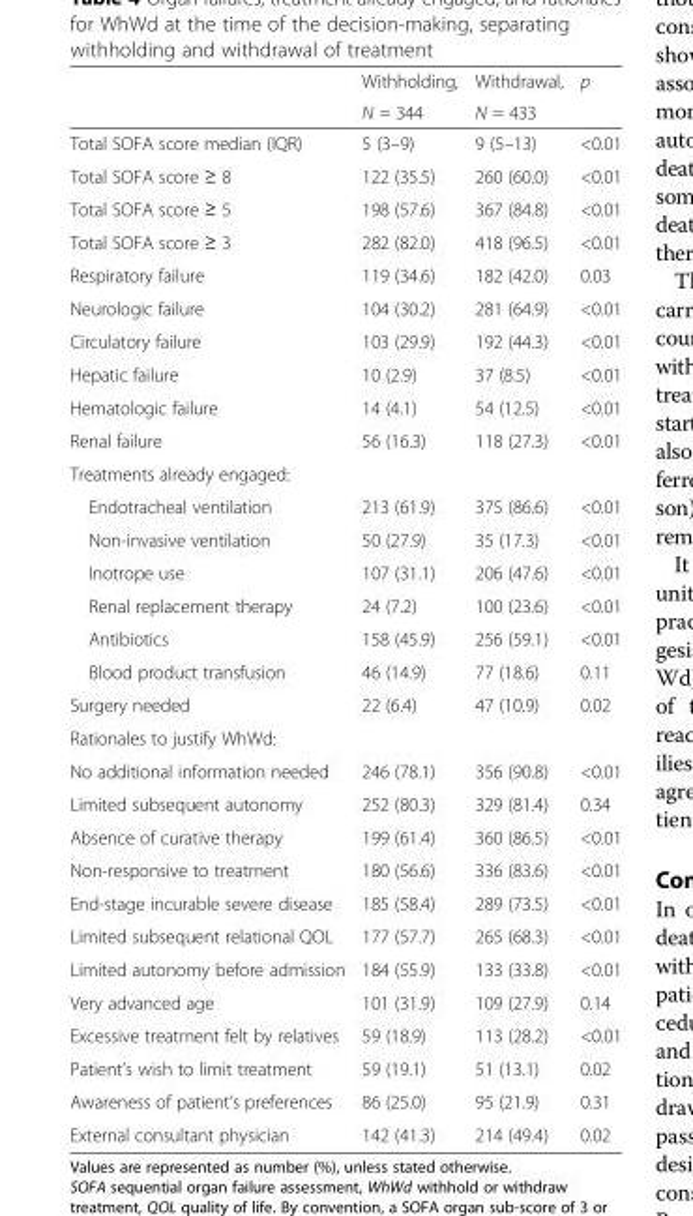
<table><thead><tr><td rowspan="2"></td><td rowspan="2">Withholding, N = 344</td><td rowspan="2">Withdrawal, N = 433</td><td rowspan="2">p</td></tr><tr></tr></thead><tbody><tr><td>Total SOFA score median (IQR)</td><td>5 (3–9)</td><td>9 (5–13)</td><td>&lt;0.01</td></tr><tr><td>Total SOFA score ≥ 8</td><td>122 (35.5)</td><td>260 (60.0)</td><td>&lt;0.01</td></tr><tr><td>Total SOFA score ≥ 5</td><td>198 (57.6)</td><td>367 (84.8)</td><td>&lt;0.01</td></tr><tr><td>Total SOFA score ≥ 3</td><td>282 (82.0)</td><td>418 (96.5)</td><td>&lt;0.01</td></tr><tr><td>Respiratory failure</td><td>119 (34.6)</td><td>182 (42.0)</td><td>0.03</td></tr><tr><td>Neurologic failure</td><td>104 (30.2)</td><td>281 (64.9)</td><td>&lt;0.01</td></tr><tr><td>Circulatory failure</td><td>103 (29.9)</td><td>192 (44.3)</td><td>&lt;0.01</td></tr><tr><td>Hepatic failure</td><td>10 (2.9)</td><td>37 (8.5)</td><td>&lt;0.01</td></tr><tr><td>Hematologic failure</td><td>14 (4.1)</td><td>54 (12.5)</td><td>&lt;0.01</td></tr><tr><td>Renal failure</td><td>56 (16.3)</td><td>118 (27.3)</td><td>&lt;0.01</td></tr><tr><td colspan="4">Treatments already engaged:</td></tr><tr><td>Endotracheal ventilation</td><td>213 (61.9)</td><td>375 (86.6)</td><td>&lt;0.01</td></tr><tr><td>Non-invasive ventilation</td><td>50 (27.9)</td><td>35 (17.3)</td><td>&lt;0.01</td></tr><tr><td>Inotrope use</td><td>107 (31.1)</td><td>206 (47.6)</td><td>&lt;0.01</td></tr><tr><td>Renal replacement therapy</td><td>24 (7.2)</td><td>100 (23.6)</td><td>&lt;0.01</td></tr><tr><td>Antibiotics</td><td>158 (45.9)</td><td>256 (59.1)</td><td>&lt;0.01</td></tr><tr><td>Blood product transfusion</td><td>46 (14.9)</td><td>77 (18.6)</td><td>0.11</td></tr><tr><td>Surgery needed</td><td>22 (6.4)</td><td>47 (10.9)</td><td>0.02</td></tr><tr><td colspan="4">Rationales to justify WhWd:</td></tr><tr><td>No additional information needed</td><td>246 (78.1)</td><td>356 (90.8)</td><td>&lt;0.01</td></tr><tr><td>Limited subsequent autonomy</td><td>252 (80.3)</td><td>329 (81.4)</td><td>0.34</td></tr><tr><td>Absence of curative therapy</td><td>199 (61.4)</td><td>360 (86.5)</td><td>&lt;0.01</td></tr><tr><td>Non-responsive to treatment</td><td>180 (56.6)</td><td>336 (83.6)</td><td>&lt;0.01</td></tr><tr><td>End-stage incurable severe disease</td><td>185 (58.4)</td><td>289 (73.5)</td><td>&lt;0.01</td></tr><tr><td>Limited subsequent relational QOL</td><td>177 (57.7)</td><td>265 (68.3)</td><td>&lt;0.01</td></tr><tr><td>Limited autonomy before admission</td><td>184 (55.9)</td><td>133 (33.8)</td><td>&lt;0.01</td></tr><tr><td>Very advanced age</td><td>101 (31.9)</td><td>109 (27.9)</td><td>0.14</td></tr><tr><td>Excessive treatment felt by relatives</td><td>59 (18.9)</td><td>113 (28.2)</td><td>&lt;0.01</td></tr><tr><td>Patient’s wish to limit treatment</td><td>59 (19.1)</td><td>51 (13.1)</td><td>0.02</td></tr><tr><td>Awareness of patient’s preferences</td><td>86 (25.0)</td><td>95 (21.9)</td><td>0.31</td></tr><tr><td>External consultant physician</td><td>142 (41.3)</td><td>214 (49.4)</td><td>0.02</td></tr></tbody></table>